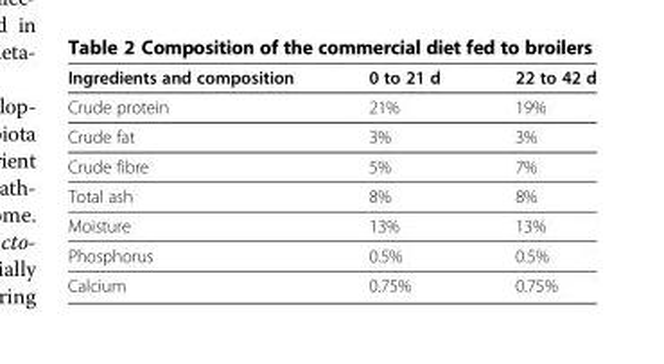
<table><thead><tr><td>Ingredients and composition</td><td>0 to 21 d</td><td>22 to 42 d</td></tr></thead><tbody><tr><td>Crude protein</td><td>21%</td><td>19%</td></tr><tr><td>Crude fat</td><td>3%</td><td>3%</td></tr><tr><td>Crude fibre</td><td>5%</td><td>7%</td></tr><tr><td>Total ash</td><td>8%</td><td>8%</td></tr><tr><td>Moisture</td><td>13%</td><td>13%</td></tr><tr><td>Phosphorus</td><td>0.5%</td><td>0.5%</td></tr><tr><td>Calcium</td><td>0.75%</td><td>0.75%</td></tr></tbody></table>